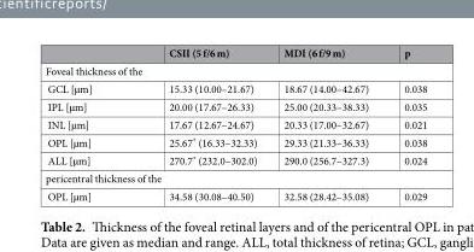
<table><thead><tr><td></td><td>CSII (5 f/6 m)</td><td>MDI (6 f/9 m)</td><td>p</td></tr></thead><tbody><tr><td colspan="4">Foveal thickness of the</td></tr><tr><td>GCL [µm]</td><td>15.33 (10.00–21.67)</td><td>18.67 (14.00–42.67)</td><td>0.038</td></tr><tr><td>IPL [µm]</td><td>20.00 (17.67–26.33)</td><td>25.00 (20.33–38.33)</td><td>0.035</td></tr><tr><td>INL [µm]</td><td>17.67 (12.67–24.67)</td><td>20.33 (17.00–32.67)</td><td>0.021</td></tr><tr><td>OPL [µm]</td><td>25.67* (16.33–32.33)</td><td>29.33 (21.33–36.33)</td><td>0.038</td></tr><tr><td>ALL [µm]</td><td>270.7* (232.0–302.0)</td><td>290.0 (256.7–327.3)</td><td>0.024</td></tr><tr><td colspan="4">pericentral thickness of the</td></tr><tr><td>OPL [µm]</td><td>34.58 (30.08–40.50)</td><td>32.58 (28.42–35.08)</td><td>0.029</td></tr></tbody></table>